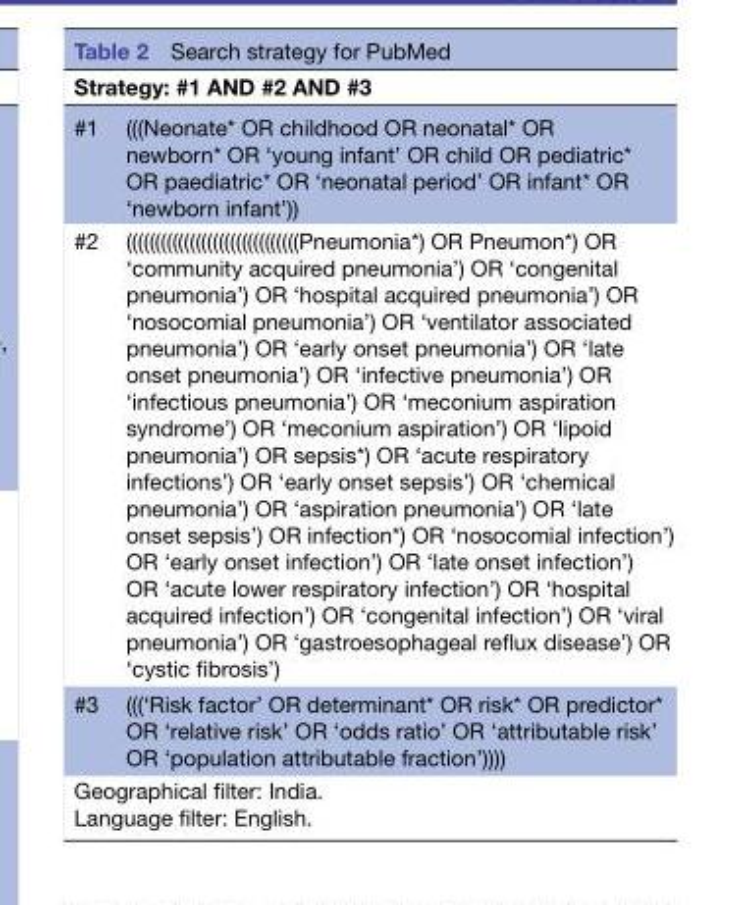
<table><thead><tr><td colspan="2">Strategy: #1 AND #2 AND #3</td></tr><tr><td>#1</td><td>(((Neonate* OR childhood OR neonatal* OR newborn* OR ‘young infant’ OR child OR pediatric* OR paediatric* OR ‘neonatal period’ OR infant* OR ‘newborn infant’))</td></tr></thead><tbody><tr><td>#2</td><td>((((((((((((((((((((((((((((((Pneumonia*) OR Pneumon*) OR ‘community acquired pneumonia’) OR ‘congenital pneumonia’) OR ‘hospital acquired pneumonia’) OR ‘nosocomial pneumonia’) OR ‘ventilator associated pneumonia’) OR ‘early onset pneumonia’) OR ‘late onset pneumonia’) OR ‘infective pneumonia’) OR ‘infectious pneumonia’) OR ‘meconium aspiration syndrome’) OR ‘meconium aspiration’) OR ‘lipoid pneumonia’) OR sepsis*) OR ‘acute respiratory infections’) OR ‘early onset sepsis’) OR ‘chemical pneumonia’) OR ‘aspiration pneumonia’) OR ‘late onset sepsis’) OR infection*) OR ‘nosocomial infection’) OR ‘early onset infection’) OR ‘late onset infection’) OR ‘acute lower respiratory infection’) OR ‘hospital acquired infection’) OR ‘congenital infection’) OR ‘viral pneumonia’) OR ‘gastroesophageal reflux disease’) OR ‘cystic fibrosis’)</td></tr><tr><td>#3</td><td>(((‘Risk factor’ OR determinant* OR risk* OR predictor* OR ‘relative risk’ OR ‘odds ratio’ OR ‘attributable risk’ OR ‘population attributable fraction’))))</td></tr><tr><td colspan="2">Geographical filter: India. Language filter: English.</td></tr></tbody></table>